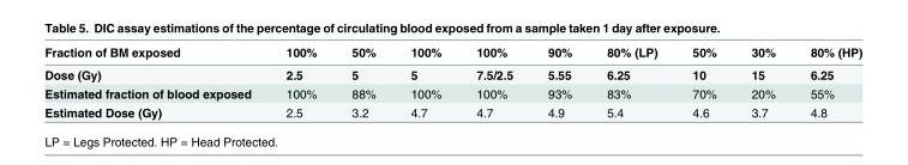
<table><thead><tr><td>Fraction of BM exposed</td><td>100%</td><td>50%</td><td>100%</td><td>100%</td><td>90%</td><td>80% (LP)</td><td>50%</td><td>30%</td><td>80% (HP)</td></tr></thead><tbody><tr><td>Dose (Gy)</td><td>2.5</td><td>5</td><td>5</td><td>7.5/2.5</td><td>5.55</td><td>6.25</td><td>10</td><td>15</td><td>6.25</td></tr><tr><td>Estimated fraction of blood exposed</td><td>100%</td><td>88%</td><td>100%</td><td>100%</td><td>93%</td><td>83%</td><td>70%</td><td>20%</td><td>55%</td></tr><tr><td>Estimated Dose (Gy)</td><td>2.5</td><td>3.2</td><td>4.7</td><td>4.7</td><td>4.9</td><td>5.4</td><td>4.6</td><td>3.7</td><td>4.8</td></tr></tbody></table>